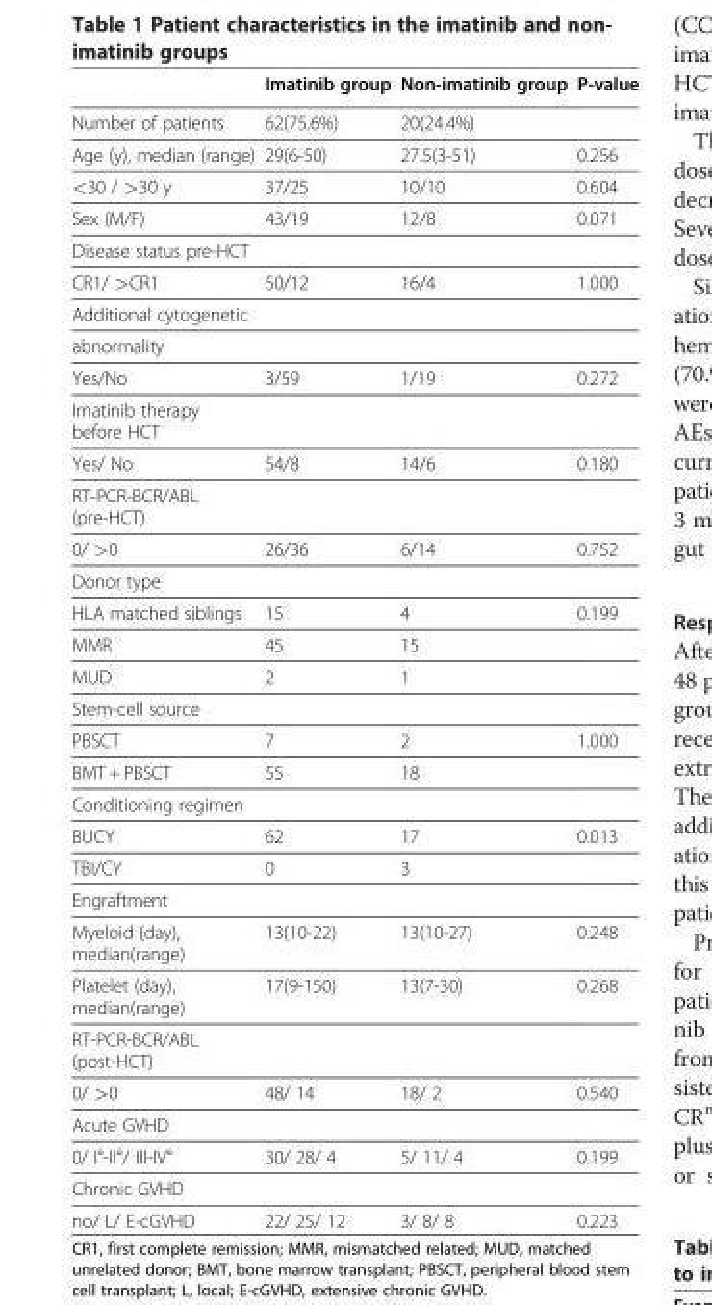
<table><thead><tr><td></td><td>Imatinib group</td><td>Non-imatinib group</td><td>P-value</td></tr></thead><tbody><tr><td>Number of patients</td><td>62(75.6%)</td><td>20(24.4%)</td><td></td></tr><tr><td>Age (y), median (range)</td><td>29(6-50)</td><td>27.5(3-51)</td><td>0.256</td></tr><tr><td>&lt;30 / &gt;30 y</td><td>37/25</td><td>10/10</td><td>0.604</td></tr><tr><td>Sex (M/F)</td><td>43/19</td><td>12/8</td><td>0.071</td></tr><tr><td colspan="4">Disease status pre-HCT</td></tr><tr><td>CR1/ &gt;CR1</td><td>50/12</td><td>16/4</td><td>1.000</td></tr><tr><td colspan="4">Additional cytogenetic</td></tr><tr><td colspan="4">abnormality</td></tr><tr><td>Yes/No</td><td>3/59</td><td>1/19</td><td>0.272</td></tr><tr><td colspan="4">Imatinib therapy before HCT</td></tr><tr><td>Yes/ No</td><td>54/8</td><td>14/6</td><td>0.180</td></tr><tr><td colspan="4">RT-PCR-BCR/ABL (pre-HCT)</td></tr><tr><td>0/ &gt;0</td><td>26/36</td><td>6/14</td><td>0.752</td></tr><tr><td colspan="4">Donor type</td></tr><tr><td>HLA matched siblings</td><td>15</td><td>4</td><td>0.199</td></tr><tr><td>MMR</td><td>45</td><td>15</td><td></td></tr><tr><td>MUD</td><td>2</td><td>1</td><td></td></tr><tr><td colspan="4">Stem-cell source</td></tr><tr><td>PBSCT</td><td>7</td><td>2</td><td>1.000</td></tr><tr><td>BMT + PBSCT</td><td>55</td><td>18</td><td></td></tr><tr><td colspan="4">Conditioning regimen</td></tr><tr><td>BUCY</td><td>62</td><td>17</td><td>0.013</td></tr><tr><td>TBI/CY</td><td>0</td><td>3</td><td></td></tr><tr><td colspan="4">Engraftment</td></tr><tr><td>Myeloid (day), median(range)</td><td>13(10-22)</td><td>13(10-27)</td><td>0.248</td></tr><tr><td>Platelet (day), median(range)</td><td>17(9-150)</td><td>13(7-30)</td><td>0.268</td></tr><tr><td colspan="4">RT-PCR-BCR/ABL (post-HCT)</td></tr><tr><td>0/ &gt;0</td><td>48/ 14</td><td>18/ 2</td><td>0.540</td></tr><tr><td colspan="4">Acute GVHD</td></tr><tr><td>0/ I°-II°/ III-IV°</td><td>30/ 28/ 4</td><td>5/ 11/ 4</td><td>0.199</td></tr><tr><td colspan="4">Chronic GVHD</td></tr><tr><td>no/ L/ E-cGVHD</td><td>22/ 25/ 12</td><td>3/ 8/ 8</td><td>0.223</td></tr></tbody></table>